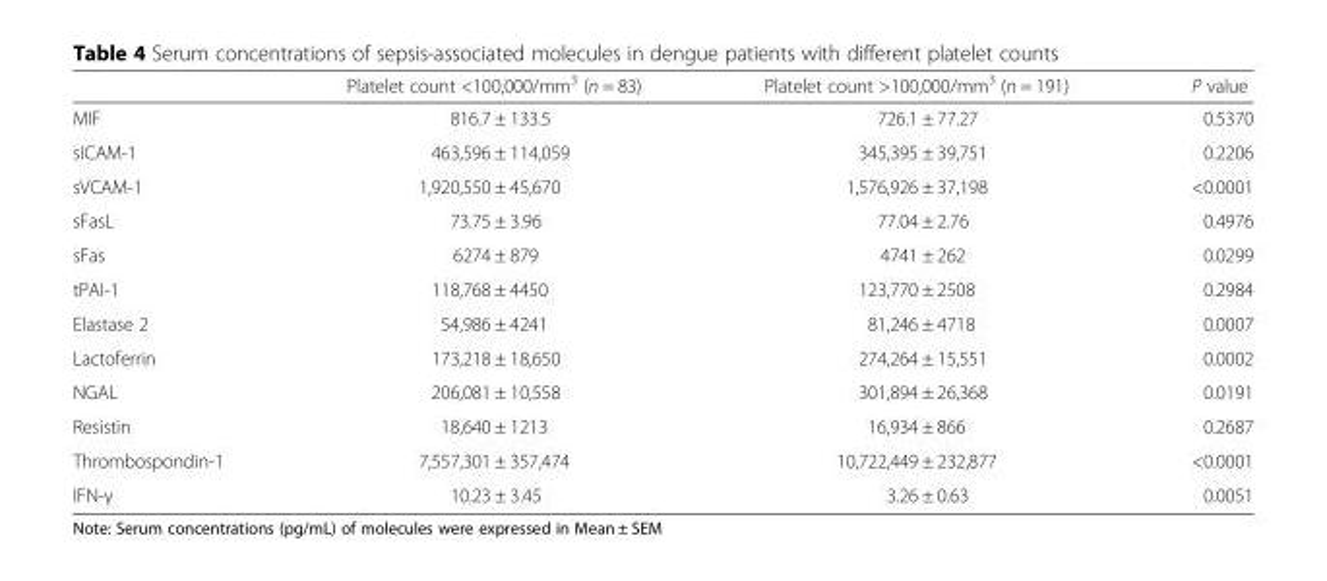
<table><thead><tr><td></td><td>Platelet count &lt;100,000/mm<sup>3</sup> (n = 83)</td><td>Platelet count &gt;100,000/mm<sup>3</sup> (n = 191)</td><td>P value</td></tr></thead><tbody><tr><td>MIF</td><td>816.7 ± 133.5</td><td>726.1 ± 77.27</td><td>0.5370</td></tr><tr><td>sICAM-1</td><td>463,596 ± 114,059</td><td>345,395 ± 39,751</td><td>0.2206</td></tr><tr><td>sVCAM-1</td><td>1,920,550 ± 45,670</td><td>1,576,926 ± 37,198</td><td>&lt;0.0001</td></tr><tr><td>sFasL</td><td>73.75 ± 3.96</td><td>77.04 ± 2.76</td><td>0.4976</td></tr><tr><td>sFas</td><td>6274 ± 879</td><td>4741 ± 262</td><td>0.0299</td></tr><tr><td>tPAI-1</td><td>118,768 ± 4450</td><td>123,770 ± 2508</td><td>0.2984</td></tr><tr><td>Elastase 2</td><td>54,986 ± 4241</td><td>81,246 ± 4718</td><td>0.0007</td></tr><tr><td>Lactoferrin</td><td>173,218 ± 18,650</td><td>274,264 ± 15,551</td><td>0.0002</td></tr><tr><td>NGAL</td><td>206,081 ± 10,558</td><td>301,894 ± 26,368</td><td>0.0191</td></tr><tr><td>Resistin</td><td>18,640 ± 1213</td><td>16,934 ± 866</td><td>0.2687</td></tr><tr><td>Thrombospondin-1</td><td>7,557,301 ± 357,474</td><td>10,722,449 ± 232,877</td><td>&lt;0.0001</td></tr><tr><td>IFN-γ</td><td>10.23 ± 3.45</td><td>3.26 ± 0.63</td><td>0.0051</td></tr></tbody></table>